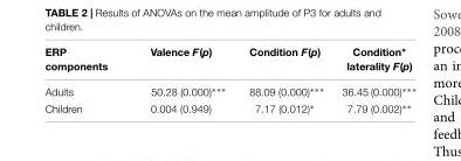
<table><thead><tr><td>ERP components</td><td>Valence F(p)</td><td>Condition F(p)</td><td>Condition∗ laterality F(p)</td></tr></thead><tbody><tr><td>Adults</td><td>50.28 (0.000)∗∗∗</td><td>88.09 (0.000)∗∗∗</td><td>36.45 (0.000)∗∗∗</td></tr><tr><td>Children</td><td>0.004 (0.949)</td><td>7.17 (0.012)∗</td><td>7.79 (0.002)∗∗</td></tr></tbody></table>